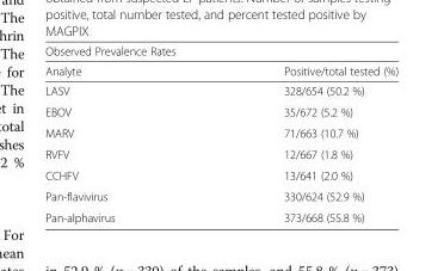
<table><thead><tr><td colspan="2">Observed Prevalence Rates</td></tr><tr><td>Analyte</td><td>Positive/total tested (%)</td></tr></thead><tbody><tr><td>LASV</td><td>328/654 (50.2 %)</td></tr><tr><td>EBOV</td><td>35/672 (5.2 %)</td></tr><tr><td>MARV</td><td>71/663 (10.7 %)</td></tr><tr><td>RVFV</td><td>12/667 (1.8 %)</td></tr><tr><td>CCHFV</td><td>13/641 (2.0 %)</td></tr><tr><td>Pan-flavivirus</td><td>330/624 (52.9 %)</td></tr><tr><td>Pan-alphavirus</td><td>373/668 (55.8 %)</td></tr></tbody></table>